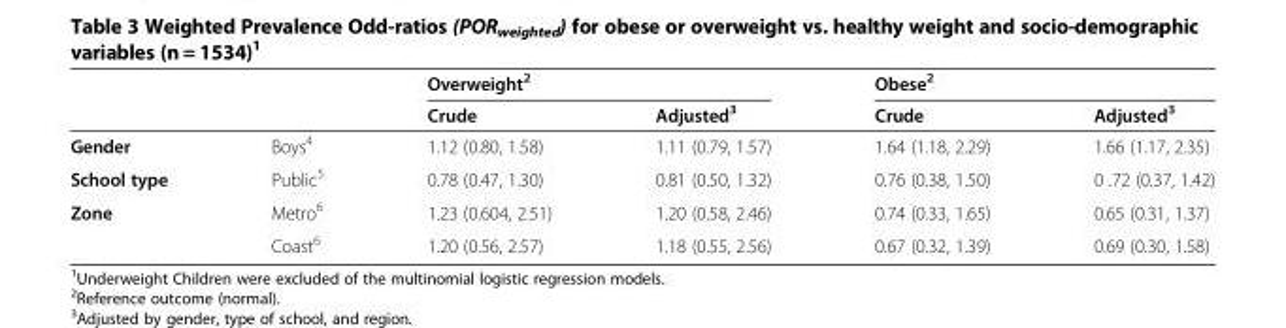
<table><thead><tr><td rowspan="2"></td><td rowspan="2"></td><td colspan="2">Overweight<sup>2</sup></td><td colspan="2">Obese<sup>2</sup></td></tr><tr><td>Crude</td><td>Adjusted<sup>3</sup></td><td>Crude</td><td>Adjusted<sup>3</sup></td></tr></thead><tbody><tr><td>Gender</td><td>Boys<sup>4</sup></td><td>1.12 (0.80, 1.58)</td><td>1.11 (0.79, 1.57)</td><td>1.64 (1.18, 2.29)</td><td>1.66 (1.17, 2.35)</td></tr><tr><td>School type</td><td>Public<sup>5</sup></td><td>0.78 (0.47, 1.30)</td><td>0.81 (0.50, 1.32)</td><td>0.76 (0.38, 1.50)</td><td>0 .72 (0.37, 1.42)</td></tr><tr><td rowspan="2">Zone</td><td>Metro<sup>6</sup></td><td>1.23 (0.604, 2.51)</td><td>1.20 (0.58, 2.46)</td><td>0.74 (0.33, 1.65)</td><td>0.65 (0.31, 1.37)</td></tr><tr><td>Coast<sup>6</sup></td><td>1.20 (0.56, 2.57)</td><td>1.18 (0.55, 2.56)</td><td>0.67 (0.32, 1.39)</td><td>0.69 (0.30, 1.58)</td></tr></tbody></table>